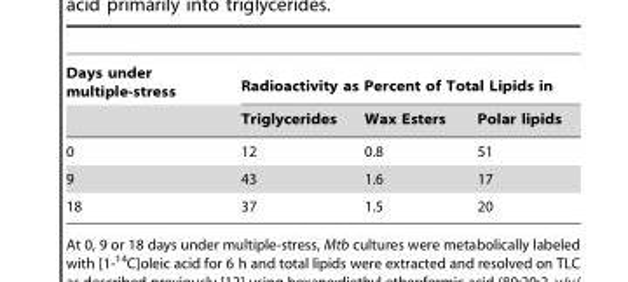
<table><thead><tr><td rowspan="2">Days under multiple-stress</td><td colspan="3">Radioactivity as Percent of Total Lipids in</td></tr><tr><td>Triglycerides</td><td>Wax Esters</td><td>Polar lipids</td></tr></thead><tbody><tr><td>0</td><td>12</td><td>0.8</td><td>51</td></tr><tr><td>9</td><td>43</td><td>1.6</td><td>17</td></tr><tr><td>18</td><td>37</td><td>1.5</td><td>20</td></tr></tbody></table>